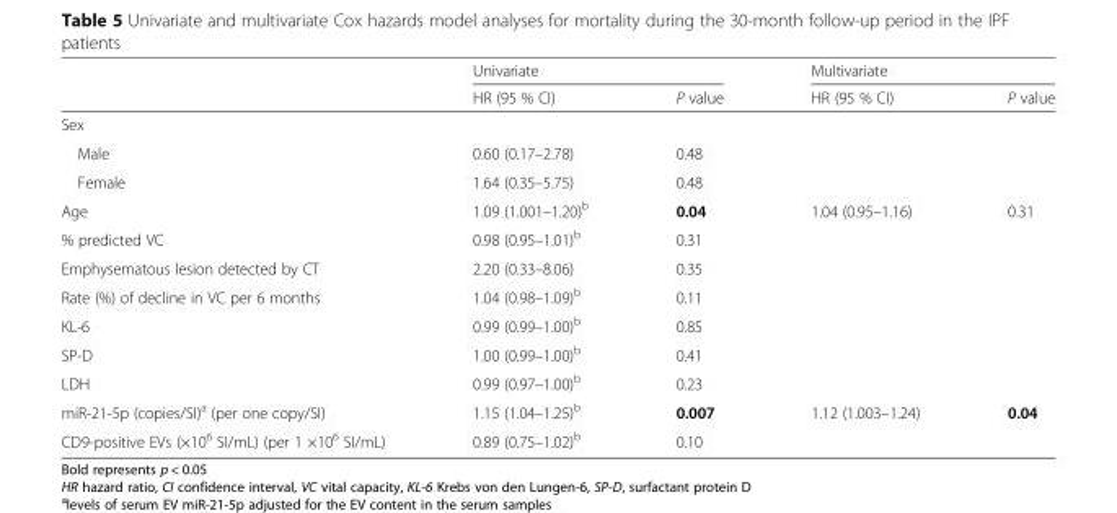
<table><thead><tr><td rowspan="2"></td><td colspan="2">Univariate</td><td colspan="2">Multivariate</td></tr><tr><td>HR (95 % CI)</td><td>P value</td><td>HR (95 % CI)</td><td>P value</td></tr></thead><tbody><tr><td colspan="5">Sex</td></tr><tr><td>Male</td><td>0.60 (0.17–2.78)</td><td>0.48</td><td></td><td></td></tr><tr><td>Female</td><td>1.64 (0.35–5.75)</td><td>0.48</td><td></td><td></td></tr><tr><td>Age</td><td>1.09 (1.001–1.20)<sup>b</sup></td><td>0.04</td><td>1.04 (0.95–1.16)</td><td>0.31</td></tr><tr><td>% predicted VC</td><td>0.98 (0.95–1.01)<sup>b</sup></td><td>0.31</td><td></td><td></td></tr><tr><td>Emphysematous lesion detected by CT</td><td>2.20 (0.33–8.06)</td><td>0.35</td><td></td><td></td></tr><tr><td>Rate (%) of decline in VC per 6 months</td><td>1.04 (0.98–1.09)<sup>b</sup></td><td>0.11</td><td></td><td></td></tr><tr><td>KL-6</td><td>0.99 (0.99–1.00)<sup>b</sup></td><td>0.85</td><td></td><td></td></tr><tr><td>SP-D</td><td>1.00 (0.99–1.00)<sup>b</sup></td><td>0.41</td><td></td><td></td></tr><tr><td>LDH</td><td>0.99 (0.97–1.00)<sup>b</sup></td><td>0.23</td><td></td><td></td></tr><tr><td>miR-21-5p (copies/SI)<sup>a</sup> (per one copy/SI)</td><td>1.15 (1.04–1.25)<sup>b</sup></td><td>0.007</td><td>1.12 (1.003–1.24)</td><td>0.04</td></tr><tr><td>CD9-positive EVs (×10<sup>6</sup> SI/mL) (per 1 ×10<sup>6</sup> SI/mL)</td><td>0.89 (0.75–1.02)<sup>b</sup></td><td>0.10</td><td></td><td></td></tr></tbody></table>